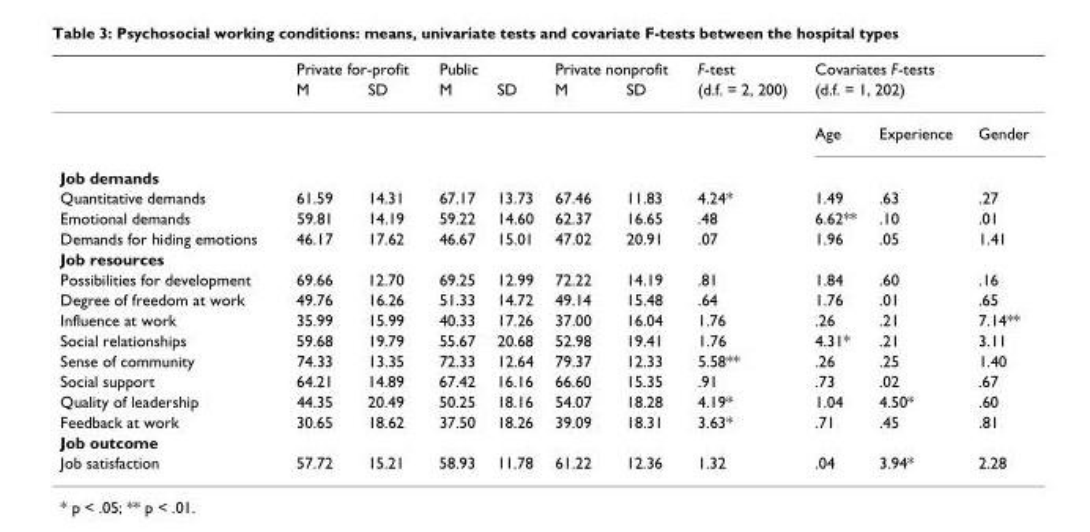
<table><thead><tr><td rowspan="3"></td><td colspan="2">Private for-profit</td><td colspan="2">Public</td><td colspan="2">Private nonprofit</td><td rowspan="3">F-test (d.f. = 2, 200)</td><td rowspan="2" colspan="3">Covariates F-tests (d.f. = 1, 202)</td></tr><tr><td rowspan="2">M</td><td rowspan="2">SD</td><td rowspan="2">M</td><td rowspan="2">SD</td><td rowspan="2">M</td><td rowspan="2">SD</td></tr><tr><td>Age</td><td>Experience</td><td>Gender</td></tr></thead><tbody><tr><td colspan="11">Job demands</td></tr><tr><td>Quantitative demands</td><td>61.59</td><td>14.31</td><td>67.17</td><td>13.73</td><td>67.46</td><td>11.83</td><td>4.24*</td><td>1.49</td><td>.63</td><td>.27</td></tr><tr><td>Emotional demands</td><td>59.81</td><td>14.19</td><td>59.22</td><td>14.60</td><td>62.37</td><td>16.65</td><td>.48</td><td>6.62**</td><td>.10</td><td>.01</td></tr><tr><td>Demands for hiding emotions</td><td>46.17</td><td>17.62</td><td>46.67</td><td>15.01</td><td>47.02</td><td>20.91</td><td>.07</td><td>1.96</td><td>.05</td><td>1.41</td></tr><tr><td colspan="11">Job resources</td></tr><tr><td>Possibilities for development</td><td>69.66</td><td>12.70</td><td>69.25</td><td>12.99</td><td>72.22</td><td>14.19</td><td>.81</td><td>1.84</td><td>.60</td><td>.16</td></tr><tr><td>Degree of freedom at work</td><td>49.76</td><td>16.26</td><td>51.33</td><td>14.72</td><td>49.14</td><td>15.48</td><td>.64</td><td>1.76</td><td>.01</td><td>.65</td></tr><tr><td>Influence at work</td><td>35.99</td><td>15.99</td><td>40.33</td><td>17.26</td><td>37.00</td><td>16.04</td><td>1.76</td><td>.26</td><td>.21</td><td>7.14**</td></tr><tr><td>Social relationships</td><td>59.68</td><td>19.79</td><td>55.67</td><td>20.68</td><td>52.98</td><td>19.41</td><td>1.76</td><td>4.31*</td><td>.21</td><td>3.11</td></tr><tr><td>Sense of community</td><td>74.33</td><td>13.35</td><td>72.33</td><td>12.64</td><td>79.37</td><td>12.33</td><td>5.58**</td><td>.26</td><td>.25</td><td>1.40</td></tr><tr><td>Social support</td><td>64.21</td><td>14.89</td><td>67.42</td><td>16.16</td><td>66.60</td><td>15.35</td><td>.91</td><td>.73</td><td>.02</td><td>.67</td></tr><tr><td>Quality of leadership</td><td>44.35</td><td>20.49</td><td>50.25</td><td>18.16</td><td>54.07</td><td>18.28</td><td>4.19*</td><td>1.04</td><td>4.50*</td><td>.60</td></tr><tr><td>Feedback at work</td><td>30.65</td><td>18.62</td><td>37.50</td><td>18.26</td><td>39.09</td><td>18.31</td><td>3.63*</td><td>.71</td><td>.45</td><td>.81</td></tr><tr><td colspan="11">Job outcome</td></tr><tr><td>Job satisfaction</td><td>57.72</td><td>15.21</td><td>58.93</td><td>11.78</td><td>61.22</td><td>12.36</td><td>1.32</td><td>.04</td><td>3.94*</td><td>2.28</td></tr></tbody></table>